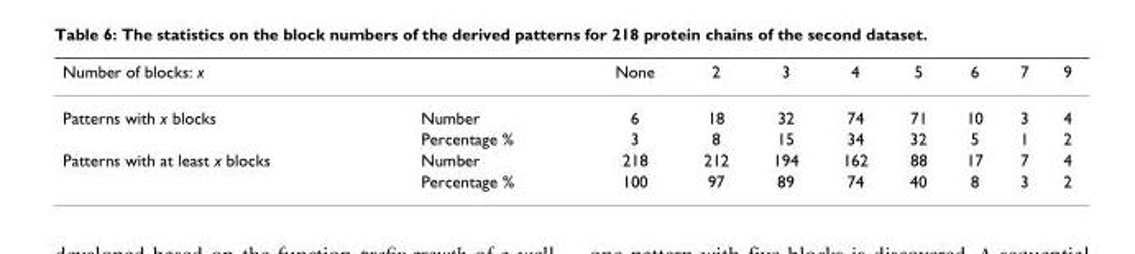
<table><thead><tr><td>Number of blocks: x</td><td></td><td>None</td><td>2</td><td>3</td><td>4</td><td>5</td><td>6</td><td>7</td><td>9</td></tr></thead><tbody><tr><td rowspan="2">Patterns with x blocks</td><td>Number</td><td>6</td><td>18</td><td>32</td><td>74</td><td>71</td><td>10</td><td>3</td><td>4</td></tr><tr><td>Percentage %</td><td>3</td><td>8</td><td>15</td><td>34</td><td>32</td><td>5</td><td>1</td><td>2</td></tr><tr><td rowspan="2">Patterns with at least x blocks</td><td>Number</td><td>218</td><td>212</td><td>194</td><td>162</td><td>88</td><td>17</td><td>7</td><td>4</td></tr><tr><td>Percentage %</td><td>100</td><td>97</td><td>89</td><td>74</td><td>40</td><td>8</td><td>3</td><td>2</td></tr></tbody></table>